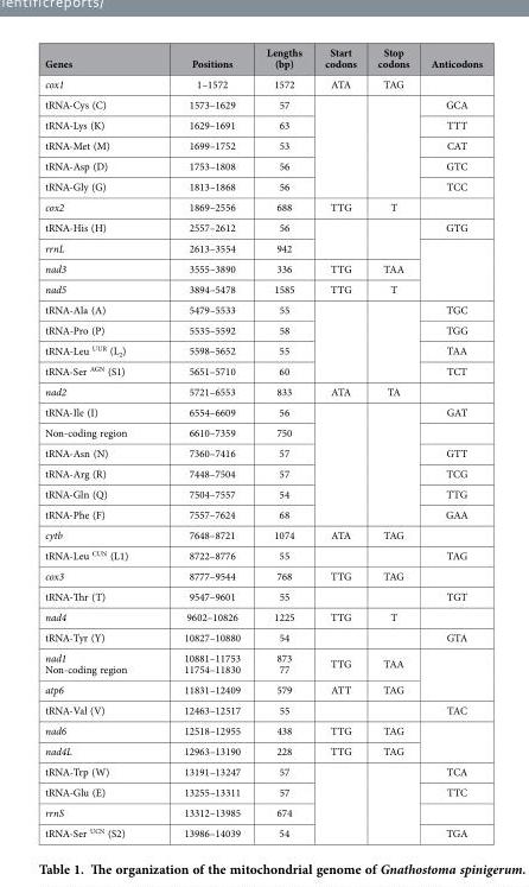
<table><thead><tr><td>Genes</td><td>Positions</td><td>Lengths (bp)</td><td>Start codons</td><td>Stop codons</td><td>Anticodons</td></tr></thead><tbody><tr><td>cox1</td><td>1–1572</td><td>1572</td><td>ATA</td><td>TAG</td><td></td></tr><tr><td>tRNA-Cys (C)</td><td>1573–1629</td><td>57</td><td rowspan="5"></td><td rowspan="5"></td><td>GCA</td></tr><tr><td>tRNA-Lys (K)</td><td>1629–1691</td><td>63</td><td>TTT</td></tr><tr><td>tRNA-Met (M)</td><td>1699–1752</td><td>53</td><td>CAT</td></tr><tr><td>tRNA-Asp (D)</td><td>1753–1808</td><td>56</td><td>GTC</td></tr><tr><td>tRNA-Gly (G)</td><td>1813–1868</td><td>56</td><td>TCC</td></tr><tr><td>cox2</td><td>1869–2556</td><td>688</td><td>TTG</td><td>T</td><td></td></tr><tr><td>tRNA-His (H)</td><td>2557–2612</td><td>56</td><td rowspan="2"></td><td rowspan="2"></td><td>GTG</td></tr><tr><td>rrnL</td><td>2613–3554</td><td>942</td><td rowspan="3"></td></tr><tr><td>nad3</td><td>3555–3890</td><td>336</td><td>TTG</td><td>TAA</td></tr><tr><td>nad5</td><td>3894–5478</td><td>1585</td><td>TTG</td><td>T</td></tr><tr><td>tRNA-Ala (A)</td><td>5479–5533</td><td>55</td><td rowspan="4"></td><td rowspan="4"></td><td>TGC</td></tr><tr><td>tRNA-Pro (P)</td><td>5535–5592</td><td>58</td><td>TGG</td></tr><tr><td>tRNA-Leu <sup>UUR</sup> (L<sub>2</sub>)</td><td>5598–5652</td><td>55</td><td>TAA</td></tr><tr><td>tRNA-Ser <sup>AGN</sup> (S1)</td><td>5651–5710</td><td>60</td><td>TCT</td></tr><tr><td>nad2</td><td>5721–6553</td><td>833</td><td>ATA</td><td>TA</td><td></td></tr><tr><td>tRNA-Ile (I)</td><td>6554–6609</td><td>56</td><td rowspan="6"></td><td rowspan="6"></td><td>GAT</td></tr><tr><td>Non-coding region</td><td>6610–7359</td><td>750</td><td></td></tr><tr><td>tRNA-Asn (N)</td><td>7360–7416</td><td>57</td><td>GTT</td></tr><tr><td>tRNA-Arg (R)</td><td>7448–7504</td><td>57</td><td>TCG</td></tr><tr><td>tRNA-Gln (Q)</td><td>7504–7557</td><td>54</td><td>TTG</td></tr><tr><td>tRNA-Phe (F)</td><td>7557–7624</td><td>68</td><td>GAA</td></tr><tr><td>cytb</td><td>7648–8721</td><td>1074</td><td>ATA</td><td>TAG</td><td></td></tr><tr><td>tRNA-Leu <sup>CUN</sup> (L1)</td><td>8722–8776</td><td>55</td><td></td><td></td><td>TAG</td></tr><tr><td>cox3</td><td>8777–9544</td><td>768</td><td>TTG</td><td>TAG</td><td></td></tr><tr><td>tRNA-Thr (T)</td><td>9547–9601</td><td>55</td><td></td><td></td><td>TGT</td></tr><tr><td>nad4</td><td>9602–10826</td><td>1225</td><td>TTG</td><td>T</td><td></td></tr><tr><td>tRNA-Tyr (Y)</td><td>10827–10880</td><td>54</td><td></td><td></td><td>GTA</td></tr><tr><td>nad1 Non-coding region</td><td>10881–11753 11754–11830</td><td>873 77</td><td>TTG</td><td>TAA</td><td></td></tr><tr><td>atp6</td><td>11831–12409</td><td>579</td><td>ATT</td><td>TAG</td><td></td></tr><tr><td>tRNA-Val (V)</td><td>12463–12517</td><td>55</td><td></td><td></td><td>TAC</td></tr><tr><td>nad6</td><td>12518–12955</td><td>438</td><td>TTG</td><td>TAG</td><td rowspan="2"></td></tr><tr><td>nad4L</td><td>12963–13190</td><td>228</td><td>TTG</td><td>TAG</td></tr><tr><td>tRNA-Trp (W)</td><td>13191–13247</td><td>57</td><td rowspan="4"></td><td rowspan="4"></td><td>TCA</td></tr><tr><td>tRNA-Glu (E)</td><td>13255–13311</td><td>57</td><td>TTC</td></tr><tr><td>rrnS</td><td>13312–13985</td><td>674</td><td></td></tr><tr><td>tRNA-Ser <sup>UCN</sup> (S2)</td><td>13986–14039</td><td>54</td><td>TGA</td></tr></tbody></table>